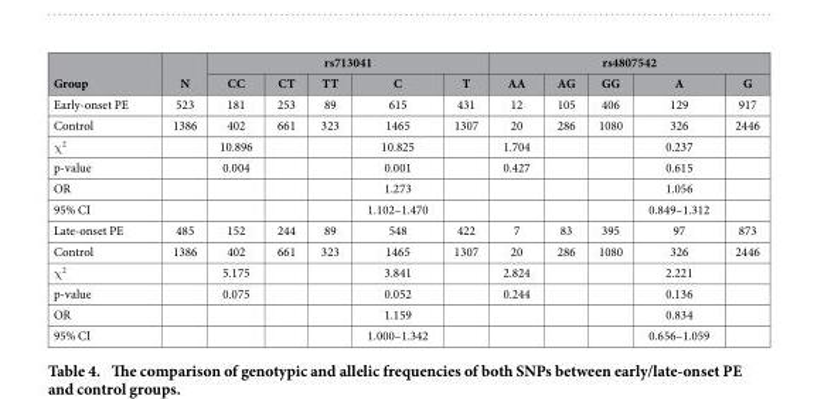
<table><thead><tr><td rowspan="2">Group</td><td rowspan="2">N</td><td colspan="5">rs713041</td><td colspan="5">rs4807542</td></tr><tr><td>CC</td><td>CT</td><td>TT</td><td>C</td><td>T</td><td>AA</td><td>AG</td><td>GG</td><td>A</td><td>G</td></tr></thead><tbody><tr><td>Early-onset PE</td><td>523</td><td>181</td><td>253</td><td>89</td><td>615</td><td>431</td><td>12</td><td>105</td><td>406</td><td>129</td><td>917</td></tr><tr><td>Control</td><td>1386</td><td>402</td><td>661</td><td>323</td><td>1465</td><td>1307</td><td>20</td><td>286</td><td>1080</td><td>326</td><td>2446</td></tr><tr><td>χ <sup>2</sup></td><td></td><td>10.896</td><td></td><td></td><td>10.825</td><td></td><td>1.704</td><td></td><td></td><td>0.237</td><td></td></tr><tr><td>p-value</td><td></td><td>0.004</td><td></td><td></td><td>0.001</td><td></td><td>0.427</td><td></td><td></td><td>0.615</td><td></td></tr><tr><td>OR</td><td></td><td></td><td></td><td></td><td>1.273</td><td></td><td></td><td></td><td></td><td>1.056</td><td></td></tr><tr><td>95% CI</td><td></td><td></td><td></td><td></td><td>1.102–1.470</td><td></td><td></td><td></td><td></td><td>0.849–1.312</td><td></td></tr><tr><td>Late-onset PE</td><td>485</td><td>152</td><td>244</td><td>89</td><td>548</td><td>422</td><td>7</td><td>83</td><td>395</td><td>97</td><td>873</td></tr><tr><td>Control</td><td>1386</td><td>402</td><td>661</td><td>323</td><td>1465</td><td>1307</td><td>20</td><td>286</td><td>1080</td><td>326</td><td>2446</td></tr><tr><td>χ <sup>2</sup></td><td></td><td>5.175</td><td></td><td></td><td>3.841</td><td></td><td>2.824</td><td></td><td></td><td>2.221</td><td></td></tr><tr><td>p-value</td><td></td><td>0.075</td><td></td><td></td><td>0.052</td><td></td><td>0.244</td><td></td><td></td><td>0.136</td><td></td></tr><tr><td>OR</td><td></td><td></td><td></td><td></td><td>1.159</td><td></td><td></td><td></td><td></td><td>0.834</td><td></td></tr><tr><td>95% CI</td><td></td><td></td><td></td><td></td><td>1.000–1.342</td><td></td><td></td><td></td><td></td><td>0.656–1.059</td><td></td></tr></tbody></table>